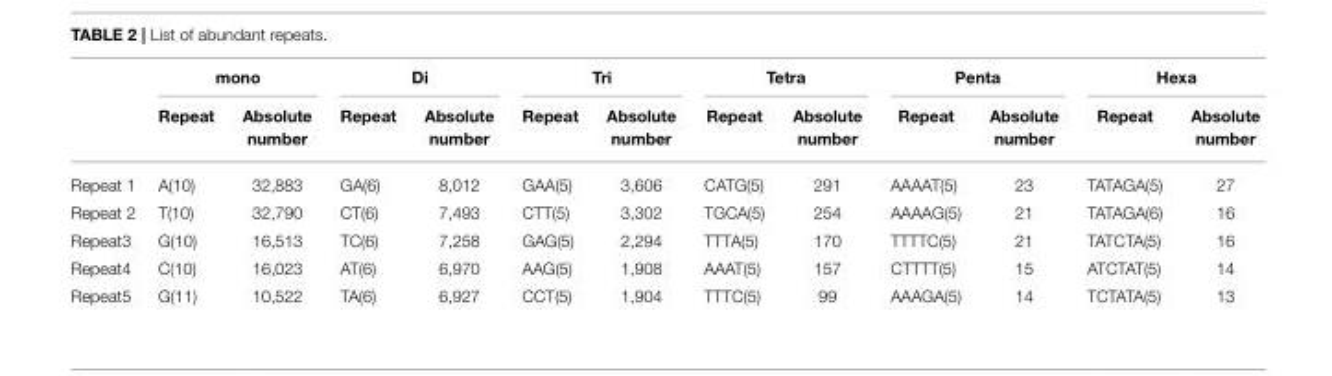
<table><thead><tr><td rowspan="2"></td><td colspan="2">mono</td><td colspan="2">Di</td><td colspan="2">Tri</td><td colspan="2">Tetra</td><td colspan="2">Penta</td><td colspan="2">Hexa</td></tr><tr><td>Repeat</td><td>Absolute number</td><td>Repeat</td><td>Absolute number</td><td>Repeat</td><td>Absolute number</td><td>Repeat</td><td>Absolute number</td><td>Repeat</td><td>Absolute number</td><td>Repeat</td><td>Absolute number</td></tr></thead><tbody><tr><td>Repeat 1</td><td>A(10)</td><td>32,883</td><td>GA(6)</td><td>8,012</td><td>GAA(5)</td><td>3,606</td><td>CATG(5)</td><td>291</td><td>AAAAT(5)</td><td>23</td><td>TATAGA(5)</td><td>27</td></tr><tr><td>Repeat 2</td><td>T(10)</td><td>32,790</td><td>CT(6)</td><td>7,493</td><td>CTT(5)</td><td>3,302</td><td>TGCA(5)</td><td>254</td><td>AAAAG(5)</td><td>21</td><td>TATAGA(6)</td><td>16</td></tr><tr><td>Repeat3</td><td>G(10)</td><td>16,513</td><td>TC(6)</td><td>7,258</td><td>GAG(5)</td><td>2,294</td><td>TTTA(5)</td><td>170</td><td>TTTTC(5)</td><td>21</td><td>TATCTA(5)</td><td>16</td></tr><tr><td>Repeat4</td><td>C(10)</td><td>16,023</td><td>AT(6)</td><td>6,970</td><td>AAG(5)</td><td>1,908</td><td>AAAT(5)</td><td>157</td><td>CTTTT(5)</td><td>15</td><td>ATCTAT(5)</td><td>14</td></tr><tr><td>Repeat5</td><td>G(11)</td><td>10,522</td><td>TA(6)</td><td>6,927</td><td>CCT(5)</td><td>1,904</td><td>TTTC(5)</td><td>99</td><td>AAAGA(5)</td><td>14</td><td>TCTATA(5)</td><td>13</td></tr></tbody></table>